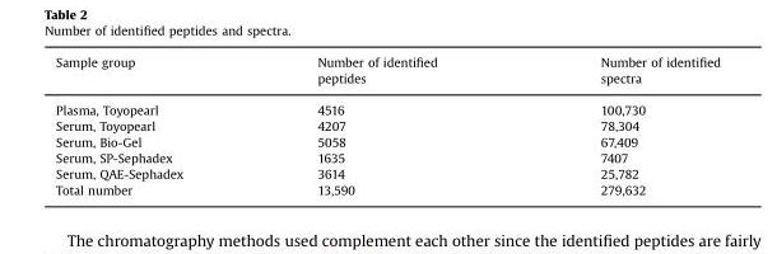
<table><thead><tr><td>Sample group</td><td>Number of identified peptides</td><td>Number of identified spectra</td></tr></thead><tbody><tr><td>Plasma, Toyopearl</td><td>4516</td><td>100,730</td></tr><tr><td>Serum, Toyopearl</td><td>4207</td><td>78,304</td></tr><tr><td>Serum, Bio-Gel</td><td>5058</td><td>67,409</td></tr><tr><td>Serum, SP-Sephadex</td><td>1635</td><td>7407</td></tr><tr><td>Serum, QAE-Sephadex</td><td>3614</td><td>25,782</td></tr><tr><td>Total number</td><td>13,590</td><td>279,632</td></tr></tbody></table>